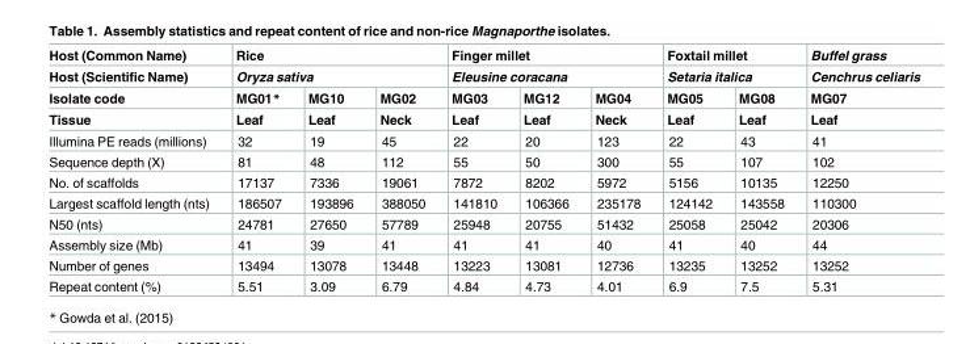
<table><thead><tr><td rowspan="4">Host (Common Name) Host (Scientific Name) Isolate code Tissue</td><td rowspan="2" colspan="3">Rice Oryza sativa</td><td rowspan="2" colspan="3">Finger millet Eleusine coracana</td><td rowspan="2" colspan="2">Foxtail millet Setaria italica</td><td rowspan="4">Buffel grass Cenchrus celiaris MG07 Leaf</td></tr><tr></tr><tr><td rowspan="2">MG01* Leaf</td><td rowspan="2">MG10 Leaf</td><td rowspan="2">MG02 Neck</td><td rowspan="2">MG03 Leaf</td><td rowspan="2">MG12 Leaf</td><td rowspan="2">MG04 Neck</td><td rowspan="2">MG05 Leaf</td><td rowspan="2">MG08 Leaf</td></tr><tr></tr></thead><tbody><tr><td>Illumina PE reads (millions)</td><td>32</td><td>19</td><td>45</td><td>22</td><td>20</td><td>123</td><td>22</td><td>43</td><td>41</td></tr><tr><td>Sequence depth (X)</td><td>81</td><td>48</td><td>112</td><td>55</td><td>50</td><td>300</td><td>55</td><td>107</td><td>102</td></tr><tr><td>No. of scaffolds</td><td>17137</td><td>7336</td><td>19061</td><td>7872</td><td>8202</td><td>5972</td><td>5156</td><td>10135</td><td>12250</td></tr><tr><td>Largest scaffold length (nts)</td><td>186507</td><td>193896</td><td>388050</td><td>141810</td><td>106366</td><td>235178</td><td>124142</td><td>143558</td><td>110300</td></tr><tr><td>N50 (nts)</td><td>24781</td><td>27650</td><td>57789</td><td>25948</td><td>20755</td><td>51432</td><td>25058</td><td>25042</td><td>20306</td></tr><tr><td>Assembly size (Mb)</td><td>41</td><td>39</td><td>41</td><td>41</td><td>41</td><td>40</td><td>41</td><td>40</td><td>44</td></tr><tr><td>Number of genes</td><td>13494</td><td>13078</td><td>13448</td><td>13223</td><td>13081</td><td>12736</td><td>13235</td><td>13252</td><td>13252</td></tr><tr><td>Repeat content (%)</td><td>5.51</td><td>3.09</td><td>6.79</td><td>4.84</td><td>4.73</td><td>4.01</td><td>6.9</td><td>7.5</td><td>5.31</td></tr></tbody></table>